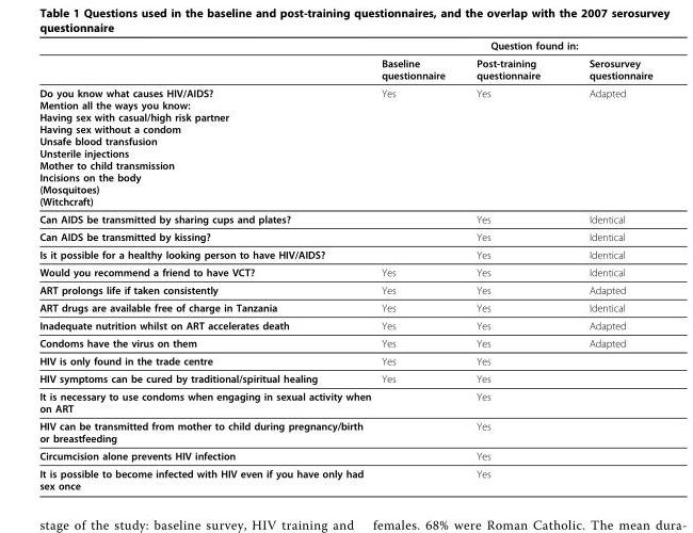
<table><thead><tr><td rowspan="2"></td><td colspan="3">Question found in:</td></tr><tr><td>Baseline questionnaire</td><td>Post-training questionnaire</td><td>Serosurvey questionnaire</td></tr></thead><tbody><tr><td>Do you know what causes HIV/AIDS? Mention all the ways you know: Having sex with casual/high risk partner Having sex without a condom Unsafe blood transfusion Unsterile injections Mother to child transmission Incisions on the body (Mosquitoes) (Witchcraft)</td><td>Yes</td><td>Yes</td><td>Adapted</td></tr><tr><td>Can AIDS be transmitted by sharing cups and plates?</td><td></td><td>Yes</td><td>Identical</td></tr><tr><td>Can AIDS be transmitted by kissing?</td><td></td><td>Yes</td><td>Identical</td></tr><tr><td>Is it possible for a healthy looking person to have HIV/AIDS?</td><td></td><td>Yes</td><td>Identical</td></tr><tr><td>Would you recommend a friend to have VCT?</td><td>Yes</td><td>Yes</td><td>Identical</td></tr><tr><td>ART prolongs life if taken consistently</td><td>Yes</td><td>Yes</td><td>Adapted</td></tr><tr><td>ART drugs are available free of charge in Tanzania</td><td>Yes</td><td>Yes</td><td>Identical</td></tr><tr><td>Inadequate nutrition whilst on ART accelerates death</td><td>Yes</td><td>Yes</td><td>Adapted</td></tr><tr><td>Condoms have the virus on them</td><td>Yes</td><td>Yes</td><td>Adapted</td></tr><tr><td>HIV is only found in the trade centre</td><td>Yes</td><td>Yes</td><td></td></tr><tr><td>HIV symptoms can be cured by traditional/spiritual healing</td><td>Yes</td><td>Yes</td><td></td></tr><tr><td>It is necessary to use condoms when engaging in sexual activity when on ART</td><td></td><td>Yes</td><td></td></tr><tr><td>HIV can be transmitted from mother to child during pregnancy/birth or breastfeeding</td><td></td><td>Yes</td><td></td></tr><tr><td>Circumcision alone prevents HIV infection</td><td></td><td>Yes</td><td></td></tr><tr><td>It is possible to become infected with HIV even if you have only had sex once</td><td></td><td>Yes</td><td></td></tr></tbody></table>